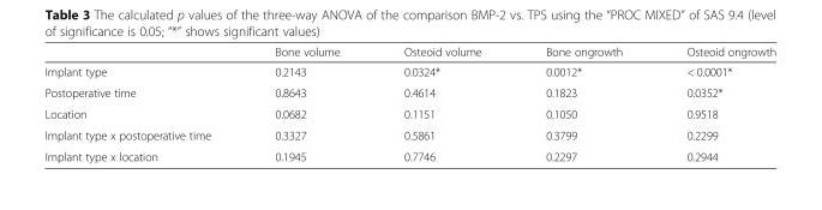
<table><thead><tr><td></td><td>Bone volume</td><td>Osteoid volume</td><td>Bone ongrowth</td><td>Osteoid ongrowth</td></tr></thead><tbody><tr><td>Implant type</td><td>0.2143</td><td>0.0324*</td><td>0.0012*</td><td>&lt; 0.0001*</td></tr><tr><td>Postoperative time</td><td>0.8643</td><td>0.4614</td><td>0.1823</td><td>0.0352*</td></tr><tr><td>Location</td><td>0.0682</td><td>0.1151</td><td>0.1050</td><td>0.9518</td></tr><tr><td>Implant type x postoperative time</td><td>0.3327</td><td>0.5861</td><td>0.3799</td><td>0.2299</td></tr><tr><td>Implant type x location</td><td>0.1945</td><td>0.7746</td><td>0.2297</td><td>0.2944</td></tr></tbody></table>